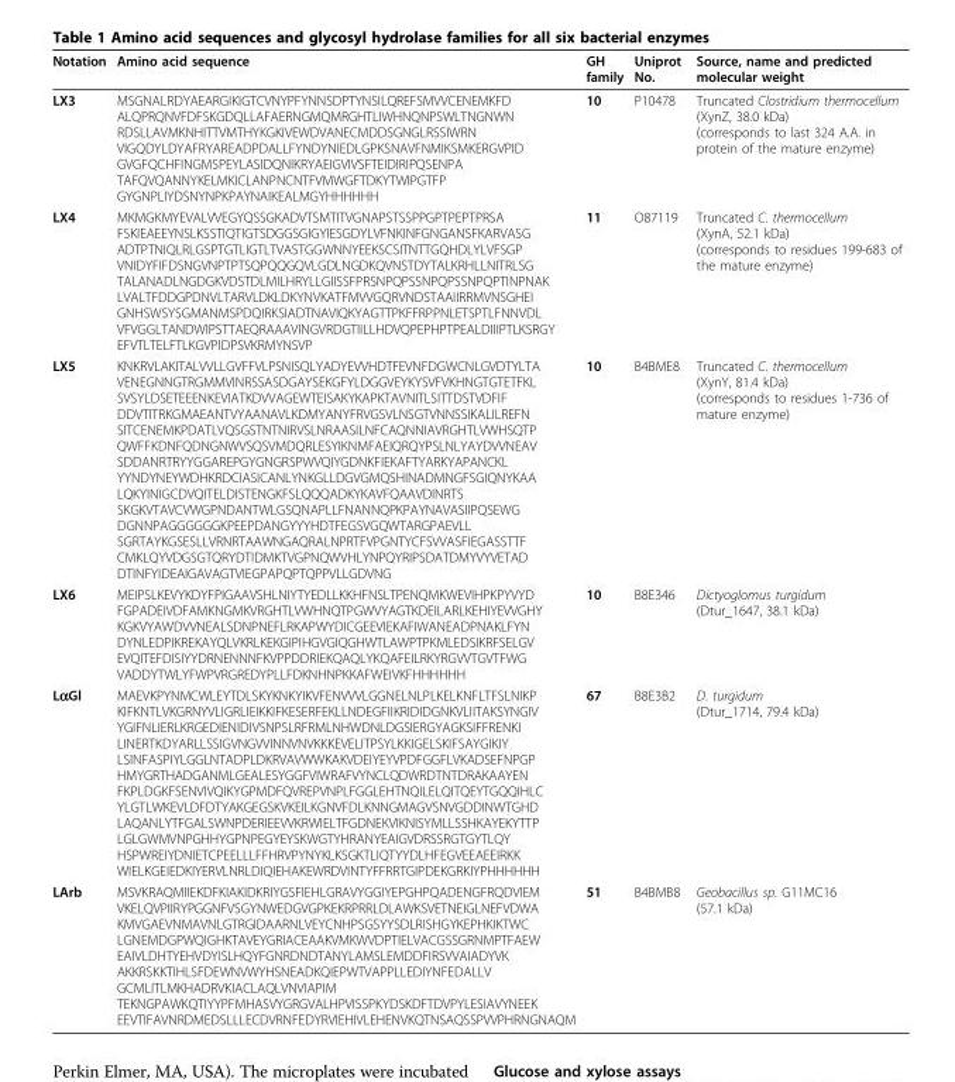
<table><thead><tr><td>Notation</td><td>Amino acid sequence</td><td>GH family</td><td>Uniprot No.</td><td>Source, name and predicted molecular weight</td></tr></thead><tbody><tr><td>LX3</td><td>MSGNALRDYAEARGIKIGTCVNYPFYNNSDPTYNSILQREFSMVVCENEMKFD ALQPRQNVFDFSKGDQLLAFAERNGMQMRGHTLIWHNQNPSWLTNGNWN RDSLLAVMKNHITTVMTHYKGKIVEWDVANECMDDSGNGLRSSIWRN VIGQDYLDYAFRYAREADPDALLFYNDYNIEDLGPKSNAVFNMIKSMKERGVPID GVGFQCHFINGMSPEYLASIDQNIKRYAEIGVIVSFTEIDIRIPQSENPA TAFQVQANNYKELMKICLANPNCNTFVMWGFTDKYTWIPGTFP GYGNPLIYDSNYNPKPAYNAIKEALMGYHHHHHH</td><td>10</td><td>P10478</td><td>Truncated Clostridium thermocellum (XynZ, 38.0 kDa) (corresponds to last 324 A.A. in protein of the mature enzyme)</td></tr><tr><td>LX4</td><td>MKMGKMYEVALVVEGYQSSGKADVTSMTITVGNAPSTSSPPGPTPEPTPRSA FSKIEAEEYNSLKSSTIQTIGTSDGGSGIGYIESGDYLVFNKINFGNGANSFKARVASG ADTPTNIQLRLGSPTGTLIGTLTVASTGGWNNYEEKSCSITNTTGQHDLYLVFSGP VNIDYFIFDSNGVNPTPTSQPQQGQVLGDLNGDKQVNSTDYTALKRHLLNITRLSG TALANADLNGDGKVDSTDLMILHRYLLGIISSFPRSNPQPSSNPQPSSNPQPTINPNAK LVALTFDDGPDNVLTARVLDKLDKYNVKATFMVVGQRVNDSTAAIIRRMVNSGHEI GNHSWSYSGMANMSPDQIRKSIADTNAVIQKYAGTTPKFFRPPNLETSPTLFNNVDL VFVGGLTANDWIPSTTAEQRAAAVINGVRDGTIILLHDVQPEPHPTPEALDIIIPTLKSRGY EFVTLTELFTLKGVPIDPSVKRMYNSVP</td><td>11</td><td>O87119</td><td>Truncated C. thermocellum (XynA, 52.1 kDa) (corresponds to residues 199-683 of the mature enzyme)</td></tr><tr><td>LX5</td><td>KNKRVLAKITALVVLLGVFFVLPSNISQLYADYEVVHDTFEVNFDGWCNLGVDTYLTA VENEGNNGTRGMMVINRSSASDGAYSEKGFYLDGGVEYKYSVFVKHNGTGTETFKL SVSYLDSETEEENKEVIATKDVVAGEWTEISAKYKAPKTAVNITLSITTDSTVDFIF DDVTITRKGMAEANTVYAANAVLKDMYANYFRVGSVLNSGTVNNSSIKALILREFN SITCENEMKPDATLVQSGSTNTNIRVSLNRAASILNFCAQNNIAVRGHTLVWHSQTP QWFFKDNFQDNGNWVSQSVMDQRLESYIKNMFAEIQRQYPSLNLYAYDVVNEAV SDDANRTRYYGGAREPGYGNGRSPWVQIYGDNKFIEKAFTYARKYAPANCKL YYNDYNEYWDHKRDCIASICANLYNKGLLDGVGMQSHINADMNGFSGIQNYKAA LQKYINIGCDVQITELDISTENGKFSLQQQADKYKAVFQAAVDINRTS SKGKVTAVCVWGPNDANTWLGSQNAPLLFNANNQPKPAYNAVASIIPQSEWG DGNNPAGGGGGGKPEEPDANGYYYHDTFEGSVGQWTARGPAEVLL SGRTAYKGSESLLVRNRTAAWNGAQRALNPRTFVPGNTYCFSVVASFIEGASSTTF CMKLQYVDGSGTQRYDTIDMKTVGPNQWVHLYNPQYRIPSDATDMYVYVETAD DTINFYIDEAIGAVAGTVIEGPAPQPTQPPVLLGDVNG</td><td>10</td><td>B4BME8</td><td>Truncated C. thermocellum (XynY, 81.4 kDa) (corresponds to residues 1-736 of mature enzyme)</td></tr><tr><td>LX6</td><td>MEIPSLKEVYKDYFPIGAAVSHLNIYTYEDLLKKHFNSLTPENQMKWEVIHPKPYVYD FGPADEIVDFAMKNGMKVRGHTLVWHNQTPGWVYAGTKDEILARLKEHIYEVVGHY KGKVYAWDVVNEALSDNPNEFLRKAPWYDICGEEVIEKAFIWANEADPNAKLFYN DYNLEDPIKREKAYQLVKRLKEKGIPIHGVGIQGHWTLAWPTPKMLEDSIKRFSELGV EVQITEFDISIYYDRNENNNFKVPPDDRIEKQAQLYKQAFEILRKYRGVVTGVTFWG VADDYTWLYFWPVRGREDYPLLFDKNHNPKKAFWEIVKFHHHHHH</td><td>10</td><td>B8E346</td><td>Dictyoglomus turgidum (Dtur_1647, 38.1 kDa)</td></tr><tr><td>LαGl</td><td>MAEVKPYNMCWLEYTDLSKYKNKYIKVFENVVVLGGNELNLPLKELKNFLTFSLNIKP KIFKNTLVKGRNYVLIGRLIEIKKIFKESERFEKLLNDEGFIIKRIDIDGNKVLIITAKSYNGIV YGIFNLIERLKRGEDIENIDIVSNPSLRFRMLNHWDNLDGSIERGYAGKSIFFRENKI LINERTKDYARLLSSIGVNGVVINNVNVKKKEVELITPSYLKKIGELSKIFSAYGIKIY LSINFASPIYLGGLNTADPLDKRVAVWWKAKVDEIYEYVPDFGGFLVKADSEFNPGP HMYGRTHADGANMLGEALESYGGFVIWRAFVYNCLQDWRDTNTDRAKAAYEN FKPLDGKFSENVIVQIKYGPMDFQVREPVNPLFGGLEHTNQILELQITQEYTGQQIHLC YLGTLWKEVLDFDTYAKGEGSKVKEILKGNVFDLKNNGMAGVSNVGDDINWTGHD LAQANLYTFGALSWNPDERIEEVVKRWIELTFGDNEKVIKNISYMLLSSHKAYEKYTTP LGLGWMVNPGHHYGPNPEGYEYSKWGTYHRANYEAIGVDRSSRGTGYTLQY HSPWREIYDNIETCPEELLLFFHRVPYNYKLKSGKTLIQTYYDLHFEGVEEAEEIRKK WIELKGEIEDKIYERVLNRLDIQIEHAKEWRDVINTYFFRRTGIPDEKGRKIYPHHHHHH</td><td>67</td><td>B8E3B2</td><td>D. turgidum (Dtur_1714, 79.4 kDa)</td></tr><tr><td>LArb</td><td>MSVKRAQMIIEKDFKIAKIDKRIYGSFIEHLGRAVYGGIYEPGHPQADENGFRQDVIEM VKELQVPIIRYPGGNFVSGYNWEDGVGPKEKRPRRLDLAWKSVETNEIGLNEFVDWA KMVGAEVNMAVNLGTRGIDAARNLVEYCNHPSGSYYSDLRISHGYKEPHKIKTWC LGNEMDGPWQIGHKTAVEYGRIACEAAKVMKWVDPTIELVACGSSGRNMPTFAEW EAIVLDHTYEHVDYISLHQYFGNRDNDTANYLAMSLEMDDFIRSVVAIADYVK AKKRSKKTIHLSFDEWNVWYHSNEADKQIEPWTVAPPLLEDIYNFEDALLV GCMLITLMKHADRVKIACLAQLVNVIAPIM TEKNGPAWKQTIYYPFMHASVYGRGVALHPVISSPKYDSKDFTDVPYLESIAVYNEEK EEVTIFAVNRDMEDSLLLECDVRNFEDYRVIEHIVLEHENVKQTNSAQSSPVVPHRNGNAQM</td><td>51</td><td>B4BMB8</td><td>Geobacillus sp. G11MC16 (57.1 kDa)</td></tr></tbody></table>